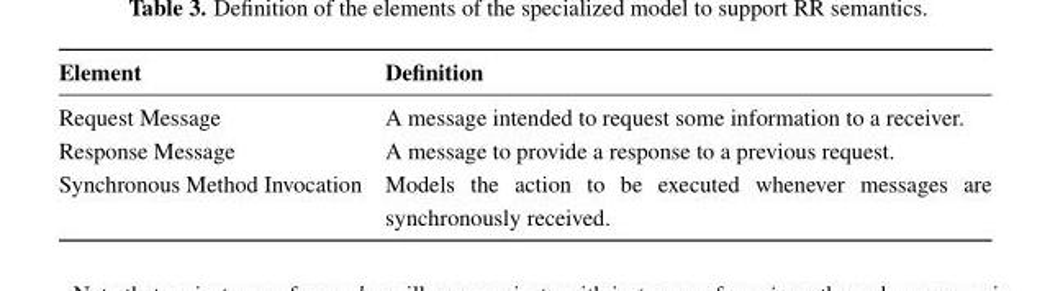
<table><thead><tr><td>Element</td><td>Definition</td></tr></thead><tbody><tr><td>Request Message</td><td>A message intended to request some information to a receiver.</td></tr><tr><td>Response Message</td><td>A message to provide a response to a previous request.</td></tr><tr><td>Synchronous Method Invocation</td><td>Models the action to be executed whenever messages are synchronously received.</td></tr></tbody></table>